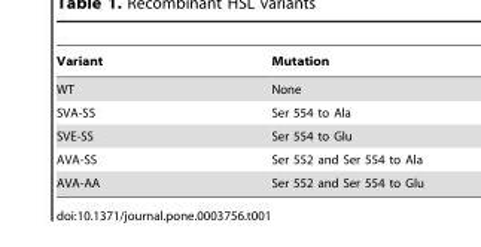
<table><thead><tr><td>Variant</td><td>Mutation</td></tr></thead><tbody><tr><td>WT</td><td>None</td></tr><tr><td>SVA-SS</td><td>Ser 554 to Ala</td></tr><tr><td>SVE-SS</td><td>Ser 554 to Glu</td></tr><tr><td>AVA-SS</td><td>Ser 552 and Ser 554 to Ala</td></tr><tr><td>AVA-AA</td><td>Ser 552 and Ser 554 to Glu</td></tr></tbody></table>